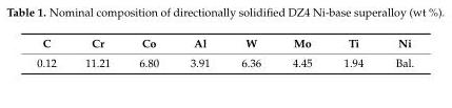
<table><thead><tr><td>C</td><td>Cr</td><td>Co</td><td>Al</td><td>W</td><td>Mo</td><td>Ti</td><td>Ni</td></tr></thead><tbody><tr><td>0.12</td><td>11.21</td><td>6.80</td><td>3.91</td><td>6.36</td><td>4.45</td><td>1.94</td><td>Bal.</td></tr></tbody></table>